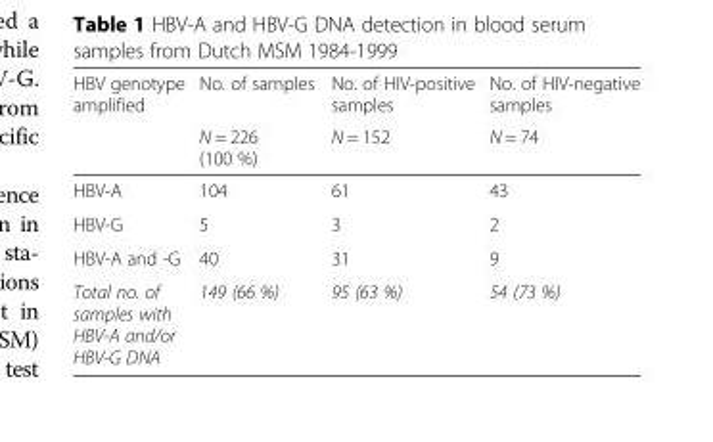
<table><thead><tr><td rowspan="2">HBV genotype amplified</td><td rowspan="2">No. of samples N = 226 (100 %)</td><td rowspan="2">No. of HIV-positive samples N = 152</td><td rowspan="2">No. of HIV-negative samples N = 74</td></tr><tr></tr></thead><tbody><tr><td>HBV-A</td><td>104</td><td>61</td><td>43</td></tr><tr><td>HBV-G</td><td>5</td><td>3</td><td>2</td></tr><tr><td>HBV-A and -G</td><td>40</td><td>31</td><td>9</td></tr><tr><td>Total no. of samples with HBV-A and/or HBV-G DNA</td><td>149 (66 %)</td><td>95 (63 %)</td><td>54 (73 %)</td></tr></tbody></table>